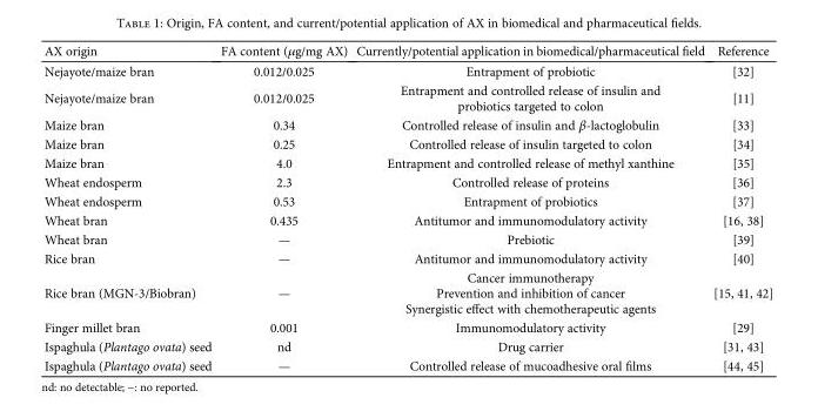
<table><thead><tr><td>AX origin</td><td>FA content (μg/mg AX)</td><td>Currently/potential application in biomedical/pharmaceutical field</td><td>Reference</td></tr></thead><tbody><tr><td>Nejayote/maize bran</td><td>0.012/0.025</td><td>Entrapment of probiotic</td><td>[32]</td></tr><tr><td>Nejayote/maize bran</td><td>0.012/0.025</td><td>Entrapment and controlled release of insulin and probiotics targeted to colon</td><td>[11]</td></tr><tr><td>Maize bran</td><td>0.34</td><td>Controlled release of insulin and β-lactoglobulin</td><td>[33]</td></tr><tr><td>Maize bran</td><td>0.25</td><td>Controlled release of insulin targeted to colon</td><td>[34]</td></tr><tr><td>Maize bran</td><td>4.0</td><td>Entrapment and controlled release of methyl xanthine</td><td>[35]</td></tr><tr><td>Wheat endosperm</td><td>2.3</td><td>Controlled release of proteins</td><td>[36]</td></tr><tr><td>Wheat endosperm</td><td>0.53</td><td>Entrapment of probiotics</td><td>[37]</td></tr><tr><td>Wheat bran</td><td>0.435</td><td>Antitumor and immunomodulatory activity</td><td>[16, 38]</td></tr><tr><td>Wheat bran</td><td>—</td><td>Prebiotic</td><td>[39]</td></tr><tr><td>Rice bran</td><td>—</td><td>Antitumor and immunomodulatory activity</td><td>[40]</td></tr><tr><td>Rice bran (MGN-3/Biobran)</td><td>—</td><td>Cancer immunotherapy Prevention and inhibition of cancer Synergistic effect with chemotherapeutic agents</td><td>[15, 41, 42]</td></tr><tr><td>Finger millet bran</td><td>0.001</td><td>Immunomodulatory activity</td><td>[29]</td></tr><tr><td>Ispaghula (Plantago ovata) seed</td><td>nd</td><td>Drug carrier</td><td>[31, 43]</td></tr><tr><td>Ispaghula (Plantago ovata) seed</td><td>—</td><td>Controlled release of mucoadhesive oral films</td><td>[44, 45]</td></tr></tbody></table>